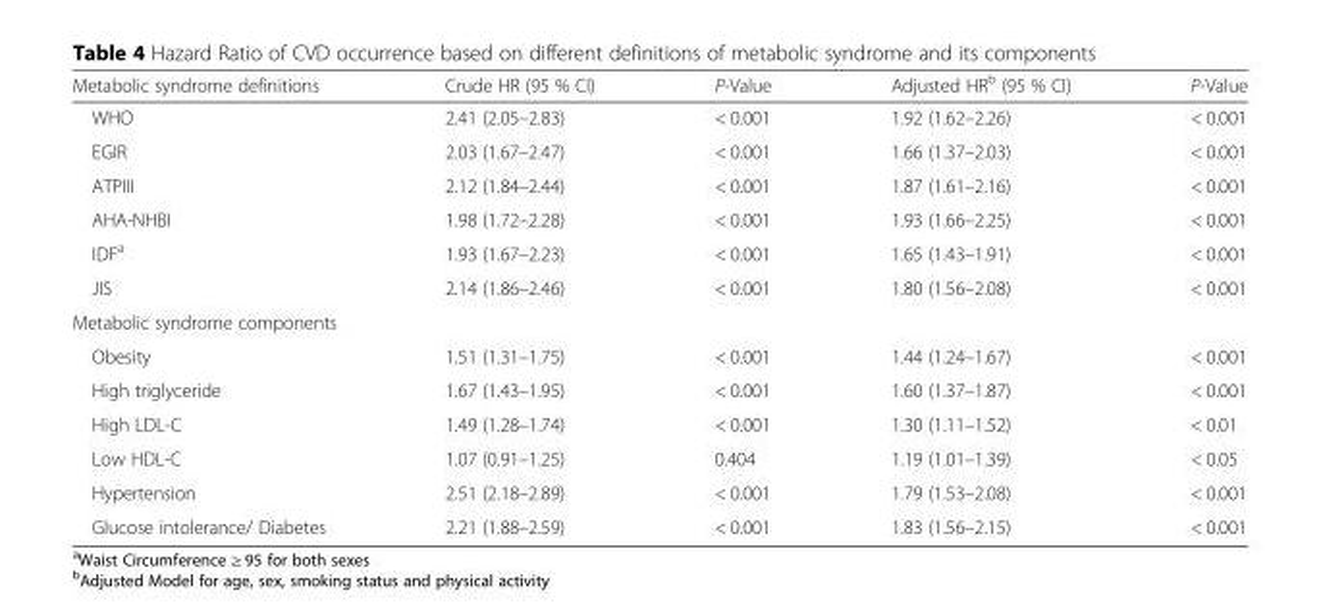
<table><thead><tr><td>Metabolic syndrome definitions</td><td>Crude HR (95 % CI)</td><td>P-Value</td><td>Adjusted HR<sup>b</sup> (95 % CI)</td><td>P-Value</td></tr></thead><tbody><tr><td>WHO</td><td>2.41 (2.05–2.83)</td><td>&lt; 0.001</td><td>1.92 (1.62–2.26)</td><td>&lt; 0.001</td></tr><tr><td>EGIR</td><td>2.03 (1.67–2.47)</td><td>&lt; 0.001</td><td>1.66 (1.37–2.03)</td><td>&lt; 0.001</td></tr><tr><td>ATPIII</td><td>2.12 (1.84–2.44)</td><td>&lt; 0.001</td><td>1.87 (1.61–2.16)</td><td>&lt; 0.001</td></tr><tr><td>AHA-NHBI</td><td>1.98 (1.72–2.28)</td><td>&lt; 0.001</td><td>1.93 (1.66–2.25)</td><td>&lt; 0.001</td></tr><tr><td>IDF<sup>a</sup></td><td>1.93 (1.67–2.23)</td><td>&lt; 0.001</td><td>1.65 (1.43–1.91)</td><td>&lt; 0.001</td></tr><tr><td>JIS</td><td>2.14 (1.86–2.46)</td><td>&lt; 0.001</td><td>1.80 (1.56–2.08)</td><td>&lt; 0.001</td></tr><tr><td colspan="5">Metabolic syndrome components</td></tr><tr><td>Obesity</td><td>1.51 (1.31–1.75)</td><td>&lt; 0.001</td><td>1.44 (1.24–1.67)</td><td>&lt; 0.001</td></tr><tr><td>High triglyceride</td><td>1.67 (1.43–1.95)</td><td>&lt; 0.001</td><td>1.60 (1.37–1.87)</td><td>&lt; 0.001</td></tr><tr><td>High LDL-C</td><td>1.49 (1.28–1.74)</td><td>&lt; 0.001</td><td>1.30 (1.11–1.52)</td><td>&lt; 0.01</td></tr><tr><td>Low HDL-C</td><td>1.07 (0.91–1.25)</td><td>0.404</td><td>1.19 (1.01–1.39)</td><td>&lt; 0.05</td></tr><tr><td>Hypertension</td><td>2.51 (2.18–2.89)</td><td>&lt; 0.001</td><td>1.79 (1.53–2.08)</td><td>&lt; 0.001</td></tr><tr><td>Glucose intolerance/ Diabetes</td><td>2.21 (1.88–2.59)</td><td>&lt; 0.001</td><td>1.83 (1.56–2.15)</td><td>&lt; 0.001</td></tr></tbody></table>